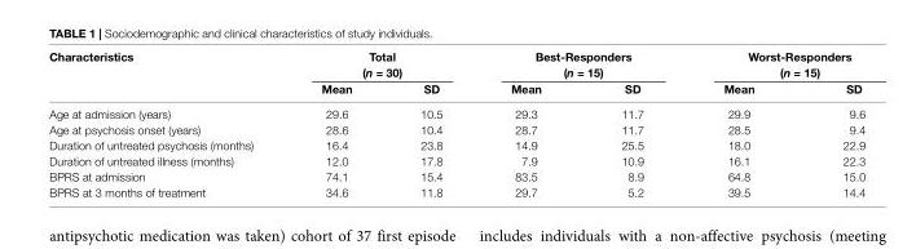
<table><thead><tr><td rowspan="3">Characteristics</td><td rowspan="2" colspan="2">Total (n = 30)</td><td rowspan="2" colspan="2">Best-Responders (n = 15)</td><td rowspan="2" colspan="2">Worst-Responders (n = 15)</td></tr><tr></tr><tr><td>Mean</td><td>SD</td><td>Mean</td><td>SD</td><td>Mean</td><td>SD</td></tr></thead><tbody><tr><td>Age at admission (years)</td><td>29.6</td><td>10.5</td><td>29.3</td><td>11.7</td><td>29.9</td><td>9.6</td></tr><tr><td>Age at psychosis onset (years)</td><td>28.6</td><td>10.4</td><td>28.7</td><td>11.7</td><td>28.5</td><td>9.4</td></tr><tr><td>Duration of untreated psychosis (months)</td><td>16.4</td><td>23.8</td><td>14.9</td><td>25.5</td><td>18.0</td><td>22.9</td></tr><tr><td>Duration of untreated illness (months)</td><td>12.0</td><td>17.8</td><td>7.9</td><td>10.9</td><td>16.1</td><td>22.3</td></tr><tr><td>BPRS at admission</td><td>74.1</td><td>15.4</td><td>83.5</td><td>8.9</td><td>64.8</td><td>15.0</td></tr><tr><td>BPRS at 3 months of treatment</td><td>34.6</td><td>11.8</td><td>29.7</td><td>5.2</td><td>39.5</td><td>14.4</td></tr></tbody></table>